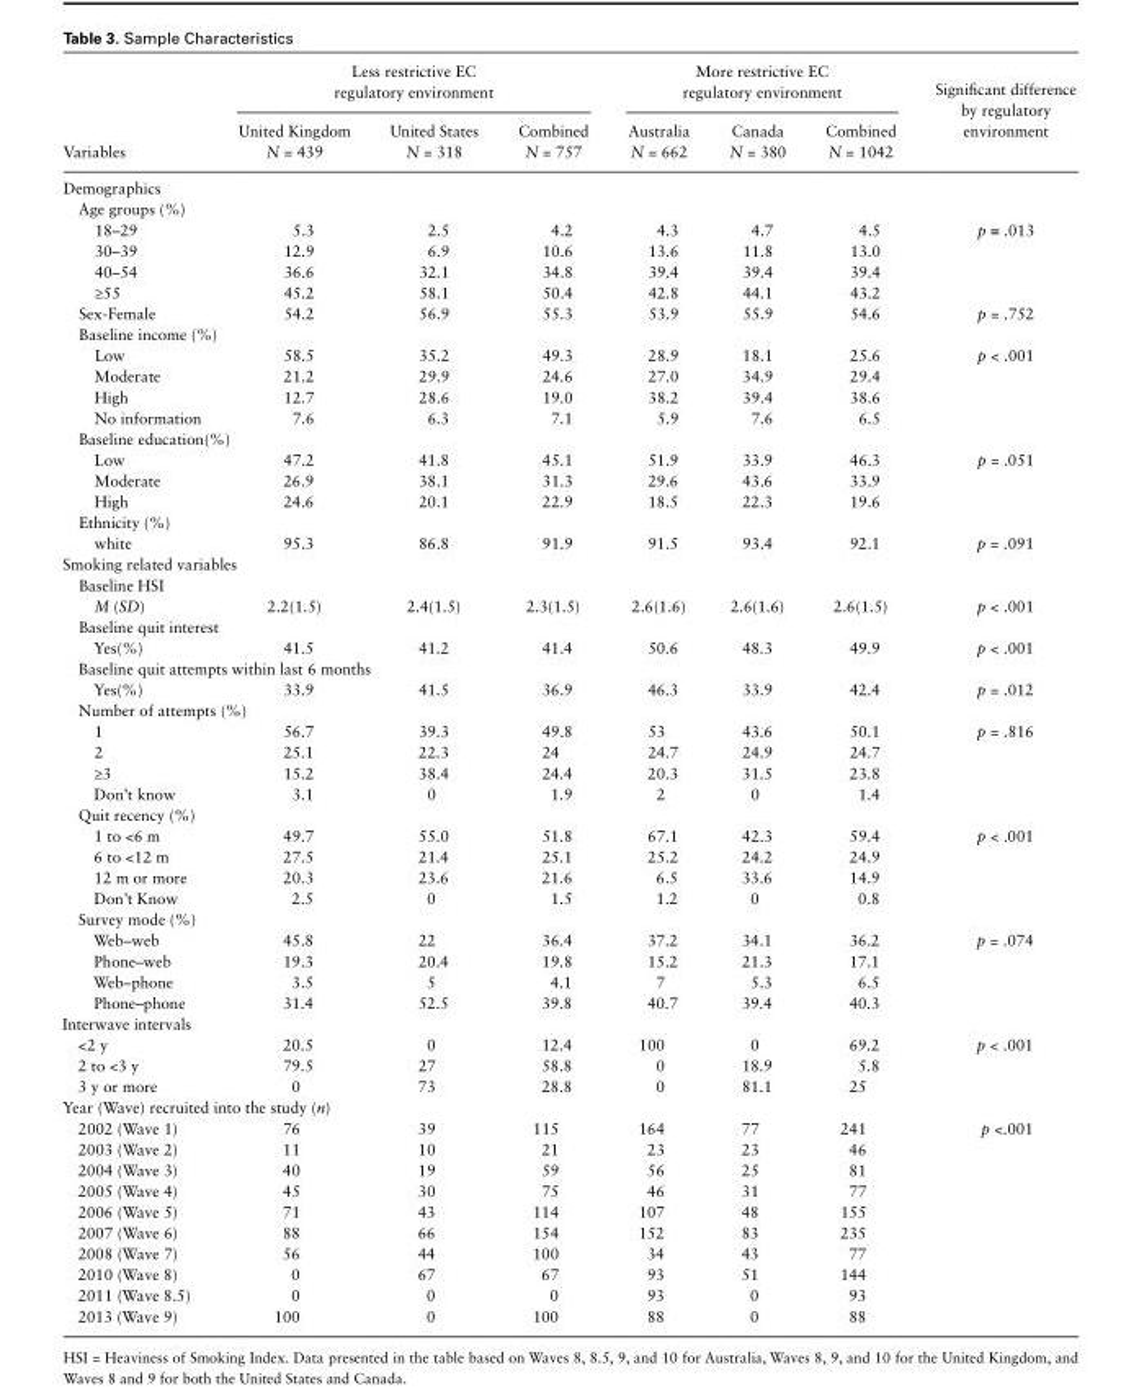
<table><thead><tr><td rowspan="2">Variables</td><td colspan="3">Less restrictive EC regulatory environment</td><td colspan="3">More restrictive EC regulatory environment</td><td rowspan="2">Significant difference by regulatory environment</td></tr><tr><td>United Kingdom N = 439</td><td>United States N = 318</td><td>Combined N = 757</td><td>Australia N = 662</td><td>Canada N = 380</td><td>Combined N = 1042</td></tr></thead><tbody><tr><td colspan="8">Demographics</td></tr><tr><td colspan="8">Age groups (%)</td></tr><tr><td>18–29</td><td>5.3</td><td>2.5</td><td>4.2</td><td>4.3</td><td>4.7</td><td>4.5</td><td>p = .013</td></tr><tr><td>30–39</td><td>12.9</td><td>6.9</td><td>10.6</td><td>13.6</td><td>11.8</td><td>13.0</td><td></td></tr><tr><td>40–54</td><td>36.6</td><td>32.1</td><td>34.8</td><td>39.4</td><td>39.4</td><td>39.4</td><td></td></tr><tr><td>≥55</td><td>45.2</td><td>58.1</td><td>50.4</td><td>42.8</td><td>44.1</td><td>43.2</td><td></td></tr><tr><td>Sex-Female</td><td>54.2</td><td>56.9</td><td>55.3</td><td>53.9</td><td>55.9</td><td>54.6</td><td>p = .752</td></tr><tr><td colspan="8">Baseline income (%)</td></tr><tr><td>Low</td><td>58.5</td><td>35.2</td><td>49.3</td><td>28.9</td><td>18.1</td><td>25.6</td><td>p &lt; .001</td></tr><tr><td>Moderate</td><td>21.2</td><td>29.9</td><td>24.6</td><td>27.0</td><td>34.9</td><td>29.4</td><td></td></tr><tr><td>High</td><td>12.7</td><td>28.6</td><td>19.0</td><td>38.2</td><td>39.4</td><td>38.6</td><td></td></tr><tr><td>No information</td><td>7.6</td><td>6.3</td><td>7.1</td><td>5.9</td><td>7.6</td><td>6.5</td><td></td></tr><tr><td colspan="8">Baseline education(%)</td></tr><tr><td>Low</td><td>47.2</td><td>41.8</td><td>45.1</td><td>51.9</td><td>33.9</td><td>46.3</td><td>p = .051</td></tr><tr><td>Moderate</td><td>26.9</td><td>38.1</td><td>31.3</td><td>29.6</td><td>43.6</td><td>33.9</td><td></td></tr><tr><td>High</td><td>24.6</td><td>20.1</td><td>22.9</td><td>18.5</td><td>22.3</td><td>19.6</td><td></td></tr><tr><td colspan="8">Ethnicity (%)</td></tr><tr><td>white</td><td>95.3</td><td>86.8</td><td>91.9</td><td>91.5</td><td>93.4</td><td>92.1</td><td>p = .091</td></tr><tr><td colspan="8">Smoking related variables</td></tr><tr><td colspan="8">Baseline HSI</td></tr><tr><td>M (SD)</td><td>2.2(1.5)</td><td>2.4(1.5)</td><td>2.3(1.5)</td><td>2.6(1.6)</td><td>2.6(1.6)</td><td>2.6(1.5)</td><td>p &lt; .001</td></tr><tr><td colspan="8">Baseline quit interest</td></tr><tr><td>Yes(%)</td><td>41.5</td><td>41.2</td><td>41.4</td><td>50.6</td><td>48.3</td><td>49.9</td><td>p &lt; .001</td></tr><tr><td colspan="8">Baseline quit attempts within last 6 months</td></tr><tr><td>Yes(%)</td><td>33.9</td><td>41.5</td><td>36.9</td><td>46.3</td><td>33.9</td><td>42.4</td><td>p = .012</td></tr><tr><td colspan="8">Number of attempts (%)</td></tr><tr><td>1</td><td>56.7</td><td>39.3</td><td>49.8</td><td>53</td><td>43.6</td><td>50.1</td><td>p = .816</td></tr><tr><td>2</td><td>25.1</td><td>22.3</td><td>24</td><td>24.7</td><td>24.9</td><td>24.7</td><td></td></tr><tr><td>≥3</td><td>15.2</td><td>38.4</td><td>24.4</td><td>20.3</td><td>31.5</td><td>23.8</td><td></td></tr><tr><td>Don’t know</td><td>3.1</td><td>0</td><td>1.9</td><td>2</td><td>0</td><td>1.4</td><td></td></tr><tr><td colspan="8">Quit recency (%)</td></tr><tr><td>1 to &lt;6 m</td><td>49.7</td><td>55.0</td><td>51.8</td><td>67.1</td><td>42.3</td><td>59.4</td><td>p &lt; .001</td></tr><tr><td>6 to &lt;12 m</td><td>27.5</td><td>21.4</td><td>25.1</td><td>25.2</td><td>24.2</td><td>24.9</td><td></td></tr><tr><td>12 m or more</td><td>20.3</td><td>23.6</td><td>21.6</td><td>6.5</td><td>33.6</td><td>14.9</td><td></td></tr><tr><td>Don’t Know</td><td>2.5</td><td>0</td><td>1.5</td><td>1.2</td><td>0</td><td>0.8</td><td></td></tr><tr><td colspan="8">Survey mode (%)</td></tr><tr><td>Web–web</td><td>45.8</td><td>22</td><td>36.4</td><td>37.2</td><td>34.1</td><td>36.2</td><td>p = .074</td></tr><tr><td>Phone–web</td><td>19.3</td><td>20.4</td><td>19.8</td><td>15.2</td><td>21.3</td><td>17.1</td><td></td></tr><tr><td>Web–phone</td><td>3.5</td><td>5</td><td>4.1</td><td>7</td><td>5.3</td><td>6.5</td><td></td></tr><tr><td>Phone–phone</td><td>31.4</td><td>52.5</td><td>39.8</td><td>40.7</td><td>39.4</td><td>40.3</td><td></td></tr><tr><td colspan="8">Interwave intervals</td></tr><tr><td>&lt;2 y</td><td>20.5</td><td>0</td><td>12.4</td><td>100</td><td>0</td><td>69.2</td><td>p &lt; .001</td></tr><tr><td>2 to &lt;3 y</td><td>79.5</td><td>27</td><td>58.8</td><td>0</td><td>18.9</td><td>5.8</td><td></td></tr><tr><td>3 y or more</td><td>0</td><td>73</td><td>28.8</td><td>0</td><td>81.1</td><td>25</td><td></td></tr><tr><td colspan="8">Year (Wave) recruited into the study (n)</td></tr><tr><td>2002 (Wave 1)</td><td>76</td><td>39</td><td>115</td><td>164</td><td>77</td><td>241</td><td>p &lt;.001</td></tr><tr><td>2003 (Wave 2)</td><td>11</td><td>10</td><td>21</td><td>23</td><td>23</td><td>46</td><td></td></tr><tr><td>2004 (Wave 3)</td><td>40</td><td>19</td><td>59</td><td>56</td><td>25</td><td>81</td><td></td></tr><tr><td>2005 (Wave 4)</td><td>45</td><td>30</td><td>75</td><td>46</td><td>31</td><td>77</td><td></td></tr><tr><td>2006 (Wave 5)</td><td>71</td><td>43</td><td>114</td><td>107</td><td>48</td><td>155</td><td></td></tr><tr><td>2007 (Wave 6)</td><td>88</td><td>66</td><td>154</td><td>152</td><td>83</td><td>235</td><td></td></tr><tr><td>2008 (Wave 7)</td><td>56</td><td>44</td><td>100</td><td>34</td><td>43</td><td>77</td><td></td></tr><tr><td>2010 (Wave 8)</td><td>0</td><td>67</td><td>67</td><td>93</td><td>51</td><td>144</td><td></td></tr><tr><td>2011 (Wave 8.5)</td><td>0</td><td>0</td><td>0</td><td>93</td><td>0</td><td>93</td><td></td></tr><tr><td>2013 (Wave 9)</td><td>100</td><td>0</td><td>100</td><td>88</td><td>0</td><td>88</td><td></td></tr></tbody></table>